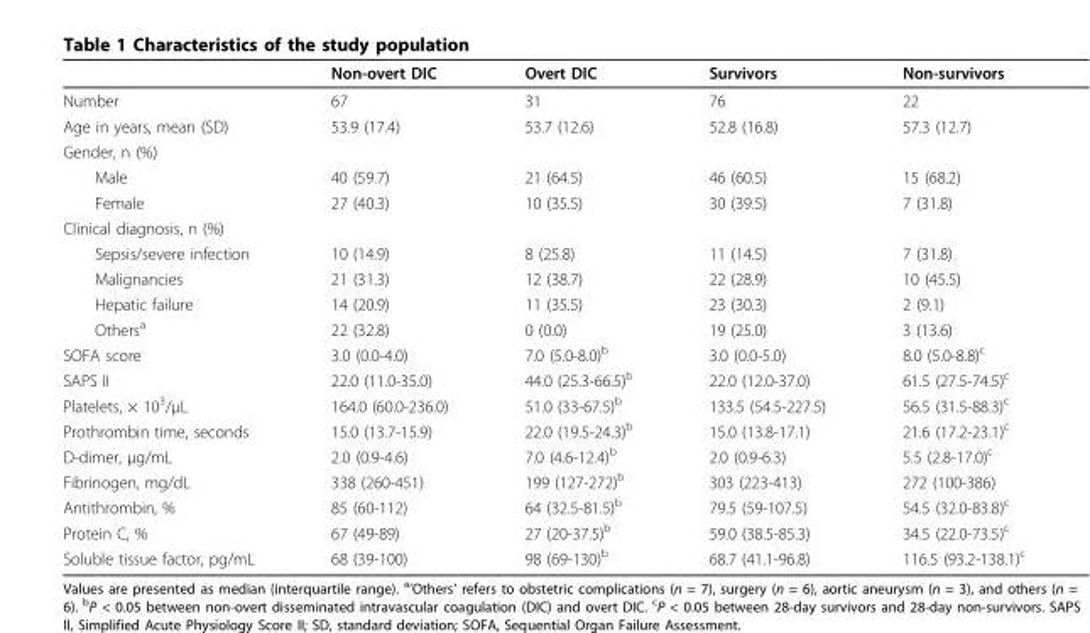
<table><thead><tr><td></td><td>Non-overt DIC</td><td>Overt DIC</td><td>Survivors</td><td>Non-survivors</td></tr></thead><tbody><tr><td>Number</td><td>67</td><td>31</td><td>76</td><td>22</td></tr><tr><td>Age in years, mean (SD)</td><td>53.9 (17.4)</td><td>53.7 (12.6)</td><td>52.8 (16.8)</td><td>57.3 (12.7)</td></tr><tr><td colspan="5">Gender, n (%)</td></tr><tr><td>Male</td><td>40 (59.7)</td><td>21 (64.5)</td><td>46 (60.5)</td><td>15 (68.2)</td></tr><tr><td>Female</td><td>27 (40.3)</td><td>10 (35.5)</td><td>30 (39.5)</td><td>7 (31.8)</td></tr><tr><td colspan="5">Clinical diagnosis, n (%)</td></tr><tr><td>Sepsis/severe infection</td><td>10 (14.9)</td><td>8 (25.8)</td><td>11 (14.5)</td><td>7 (31.8)</td></tr><tr><td>Malignancies</td><td>21 (31.3)</td><td>12 (38.7)</td><td>22 (28.9)</td><td>10 (45.5)</td></tr><tr><td>Hepatic failure</td><td>14 (20.9)</td><td>11 (35.5)</td><td>23 (30.3)</td><td>2 (9.1)</td></tr><tr><td>Others<sup>a</sup></td><td>22 (32.8)</td><td>0 (0.0)</td><td>19 (25.0)</td><td>3 (13.6)</td></tr><tr><td>SOFA score</td><td>3.0 (0.0-4.0)</td><td>7.0 (5.0-8.0)<sup>b</sup></td><td>3.0 (0.0-5.0)</td><td>8.0 (5.0-8.8)<sup>c</sup></td></tr><tr><td>SAPS II</td><td>22.0 (11.0-35.0)</td><td>44.0 (25.3-66.5)<sup>b</sup></td><td>22.0 (12.0-37.0)</td><td>61.5 (27.5-74.5)<sup>c</sup></td></tr><tr><td>Platelets, × 10<sup>3</sup>/μL</td><td>164.0 (60.0-236.0)</td><td>51.0 (33-67.5)<sup>b</sup></td><td>133.5 (54.5-227.5)</td><td>56.5 (31.5-88.3)<sup>c</sup></td></tr><tr><td>Prothrombin time, seconds</td><td>15.0 (13.7-15.9)</td><td>22.0 (19.5-24.3)<sup>b</sup></td><td>15.0 (13.8-17.1)</td><td>21.6 (17.2-23.1)<sup>c</sup></td></tr><tr><td>D-dimer, μg/mL</td><td>2.0 (0.9-4.6)</td><td>7.0 (4.6-12.4)<sup>b</sup></td><td>2.0 (0.9-6.3)</td><td>5.5 (2.8-17.0)<sup>c</sup></td></tr><tr><td>Fibrinogen, mg/dL</td><td>338 (260-451)</td><td>199 (127-272)<sup>b</sup></td><td>303 (223-413)</td><td>272 (100-386)</td></tr><tr><td>Antithrombin, %</td><td>85 (60-112)</td><td>64 (32.5-81.5)<sup>b</sup></td><td>79.5 (59-107.5)</td><td>54.5 (32.0-83.8)<sup>c</sup></td></tr><tr><td>Protein C, %</td><td>67 (49-89)</td><td>27 (20-37.5)<sup>b</sup></td><td>59.0 (38.5-85.3)</td><td>34.5 (22.0-73.5)<sup>c</sup></td></tr><tr><td>Soluble tissue factor, pg/mL</td><td>68 (39-100)</td><td>98 (69-130)<sup>b</sup></td><td>68.7 (41.1-96.8)</td><td>116.5 (93.2-138.1)<sup>c</sup></td></tr></tbody></table>